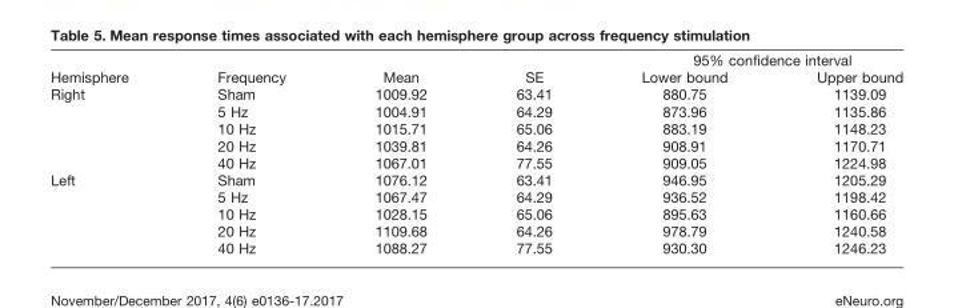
<table><thead><tr><td rowspan="2">Hemisphere</td><td rowspan="2">Frequency</td><td rowspan="2">Mean</td><td rowspan="2">SE</td><td colspan="2">95% confidence interval</td></tr><tr><td>Lower bound</td><td>Upper bound</td></tr></thead><tbody><tr><td rowspan="5">Right</td><td>Sham</td><td>1009.92</td><td>63.41</td><td>880.75</td><td>1139.09</td></tr><tr><td>5 Hz</td><td>1004.91</td><td>64.29</td><td>873.96</td><td>1135.86</td></tr><tr><td>10 Hz</td><td>1015.71</td><td>65.06</td><td>883.19</td><td>1148.23</td></tr><tr><td>20 Hz</td><td>1039.81</td><td>64.26</td><td>908.91</td><td>1170.71</td></tr><tr><td>40 Hz</td><td>1067.01</td><td>77.55</td><td>909.05</td><td>1224.98</td></tr><tr><td rowspan="5">Left</td><td>Sham</td><td>1076.12</td><td>63.41</td><td>946.95</td><td>1205.29</td></tr><tr><td>5 Hz</td><td>1067.47</td><td>64.29</td><td>936.52</td><td>1198.42</td></tr><tr><td>10 Hz</td><td>1028.15</td><td>65.06</td><td>895.63</td><td>1160.66</td></tr><tr><td>20 Hz</td><td>1109.68</td><td>64.26</td><td>978.79</td><td>1240.58</td></tr><tr><td>40 Hz</td><td>1088.27</td><td>77.55</td><td>930.30</td><td>1246.23</td></tr></tbody></table>